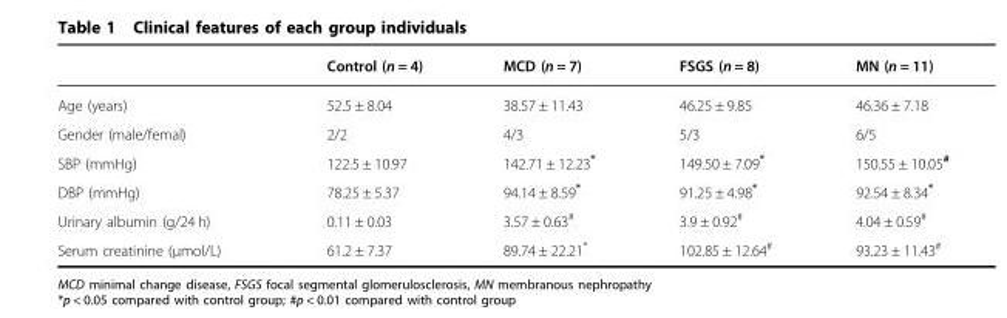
<table><thead><tr><td></td><td>Control (n = 4)</td><td>MCD (n = 7)</td><td>FSGS (n = 8)</td><td>MN (n = 11)</td></tr></thead><tbody><tr><td>Age (years)</td><td>52.5 ± 8.04</td><td>38.57 ± 11.43</td><td>46.25 ± 9.85</td><td>46.36 ± 7.18</td></tr><tr><td>Gender (male/femal)</td><td>2/2</td><td>4/3</td><td>5/3</td><td>6/5</td></tr><tr><td>SBP (mmHg)</td><td>122.5 ± 10.97</td><td>142.71 ± 12.23*</td><td>149.50 ± 7.09*</td><td>150.55 ± 10.05<sup>#</sup></td></tr><tr><td>DBP (mmHg)</td><td>78.25 ± 5.37</td><td>94.14 ± 8.59*</td><td>91.25 ± 4.98*</td><td>92.54 ± 8.34*</td></tr><tr><td>Urinary albumin (g/24 h)</td><td>0.11 ± 0.03</td><td>3.57 ± 0.63<sup>#</sup></td><td>3.9 ± 0.92<sup>#</sup></td><td>4.04 ± 0.59<sup>#</sup></td></tr><tr><td>Serum creatinine (μmol/L)</td><td>61.2 ± 7.37</td><td>89.74 ± 22.21*</td><td>102.85 ± 12.64<sup>#</sup></td><td>93.23 ± 11.43<sup>#</sup></td></tr></tbody></table>